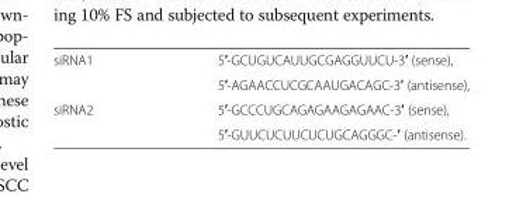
<table><tbody><tr><td rowspan="2">siRNA1</td><td>5′-GCUGUCAUUGCGAGGUUCU-3′ (sense),</td></tr><tr><td>5′-AGAACCUCGCAAUGACAGC-3′ (antisense),</td></tr><tr><td rowspan="2">siRNA2</td><td>5′-GCCCUGCAGAGAAGAGAAC-3′ (sense),</td></tr><tr><td>5′-GUUCUCUUCUCUGCAGGGC-′ (antisense).</td></tr></tbody></table>